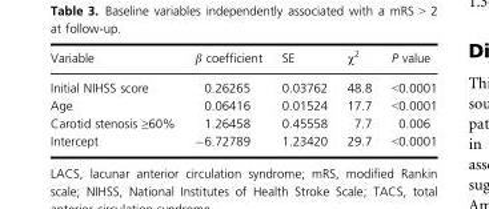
<table><thead><tr><td>Variable</td><td>β coefficient</td><td>SE</td><td>χ<sup>2</sup></td><td>P value</td></tr></thead><tbody><tr><td>Initial NIHSS score</td><td>0.26265</td><td>0.03762</td><td>48.8</td><td>&lt;0.0001</td></tr><tr><td>Age</td><td>0.06416</td><td>0.01524</td><td>17.7</td><td>&lt;0.0001</td></tr><tr><td>Carotid stenosis ≥60%</td><td>1.26458</td><td>0.45558</td><td>7.7</td><td>0.006</td></tr><tr><td>Intercept</td><td>−6.72789</td><td>1.23420</td><td>29.7</td><td>&lt;0.0001</td></tr></tbody></table>